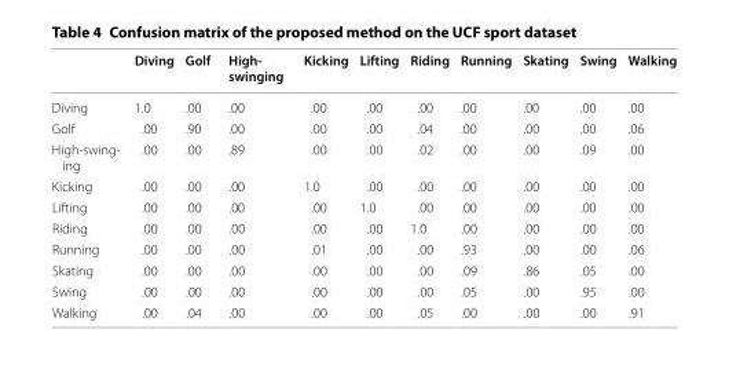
<table><thead><tr><td></td><td>Diving</td><td>Golf</td><td>High- swinging</td><td>Kicking</td><td>Lifting</td><td>Riding</td><td>Running</td><td>Skating</td><td>Swing</td><td>Walking</td></tr></thead><tbody><tr><td>Diving</td><td>1.0</td><td>.00</td><td>.00</td><td>.00</td><td>.00</td><td>.00</td><td>.00</td><td>.00</td><td>.00</td><td>.00</td></tr><tr><td>Golf</td><td>.00</td><td>.90</td><td>.00</td><td>.00</td><td>.00</td><td>.04</td><td>.00</td><td>.00</td><td>.00</td><td>.06</td></tr><tr><td>High‑swing‑ ing</td><td>.00</td><td>.00</td><td>.89</td><td>.00</td><td>.00</td><td>.02</td><td>.00</td><td>.00</td><td>.09</td><td>.00</td></tr><tr><td>Kicking</td><td>.00</td><td>.00</td><td>.00</td><td>1.0</td><td>.00</td><td>.00</td><td>.00</td><td>.00</td><td>.00</td><td>.00</td></tr><tr><td>Lifting</td><td>.00</td><td>.00</td><td>.00</td><td>.00</td><td>1.0</td><td>.00</td><td>.00</td><td>.00</td><td>.00</td><td>.00</td></tr><tr><td>Riding</td><td>.00</td><td>.00</td><td>.00</td><td>.00</td><td>.00</td><td>1.0</td><td>.00</td><td>.00</td><td>.00</td><td>.00</td></tr><tr><td>Running</td><td>.00</td><td>.00</td><td>.00</td><td>.01</td><td>.00</td><td>.00</td><td>.93</td><td>.00</td><td>.00</td><td>.06</td></tr><tr><td>Skating</td><td>.00</td><td>.00</td><td>.00</td><td>.00</td><td>.00</td><td>.00</td><td>.09</td><td>.86</td><td>.05</td><td>.00</td></tr><tr><td>Swing</td><td>.00</td><td>.00</td><td>.00</td><td>.00</td><td>.00</td><td>.00</td><td>.05</td><td>.00</td><td>.95</td><td>.00</td></tr><tr><td>Walking</td><td>.00</td><td>.04</td><td>.00</td><td>.00</td><td>.00</td><td>.05</td><td>.00</td><td>.00</td><td>.00</td><td>.91</td></tr></tbody></table>